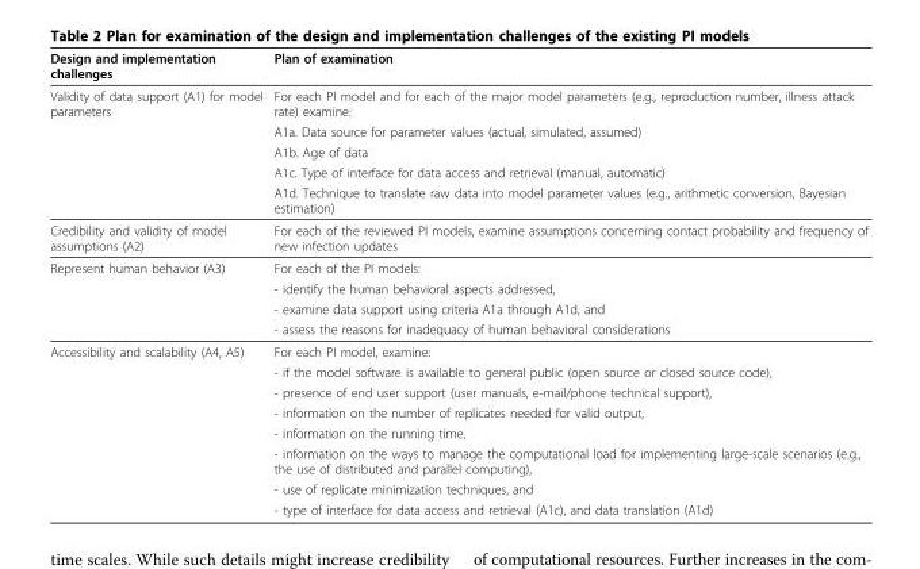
<table><thead><tr><td>Design and implementation challenges</td><td>Plan of examination</td></tr></thead><tbody><tr><td rowspan="5">Validity of data support (A1) for model parameters</td><td>For each PI model and for each of the major model parameters (e.g., reproduction number, illness attack rate) examine:</td></tr><tr><td>A1a. Data source for parameter values (actual, simulated, assumed)</td></tr><tr><td>A1b. Age of data</td></tr><tr><td>A1c. Type of interface for data access and retrieval (manual, automatic)</td></tr><tr><td>A1d. Technique to translate raw data into model parameter values (e.g., arithmetic conversion, Bayesian estimation)</td></tr><tr><td>Credibility and validity of model assumptions (A2)</td><td>For each of the reviewed PI models, examine assumptions concerning contact probability and frequency of new infection updates</td></tr><tr><td rowspan="4">Represent human behavior (A3)</td><td>For each of the PI models:</td></tr><tr><td>- identify the human behavioral aspects addressed,</td></tr><tr><td>- examine data support using criteria A1a through A1d, and</td></tr><tr><td>- assess the reasons for inadequacy of human behavioral considerations</td></tr><tr><td rowspan="8">Accessibility and scalability (A4, A5)</td><td>For each PI model, examine:</td></tr><tr><td>- if the model software is available to general public (open source or closed source code),</td></tr><tr><td>- presence of end user support (user manuals, e-mail/phone technical support),</td></tr><tr><td>- information on the number of replicates needed for valid output,</td></tr><tr><td>- information on the running time,</td></tr><tr><td>- information on the ways to manage the computational load for implementing large-scale scenarios (e.g., the use of distributed and parallel computing),</td></tr><tr><td>- use of replicate minimization techniques, and</td></tr><tr><td>- type of interface for data access and retrieval (A1c), and data translation (A1d)</td></tr></tbody></table>